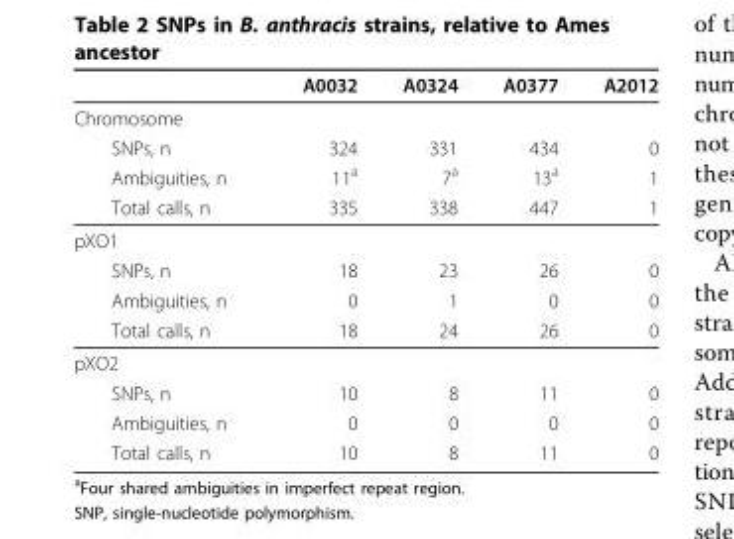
<table><thead><tr><td></td><td>A0032</td><td>A0324</td><td>A0377</td><td>A2012</td></tr></thead><tbody><tr><td colspan="5">Chromosome</td></tr><tr><td>SNPs, n</td><td>324</td><td>331</td><td>434</td><td>0</td></tr><tr><td>Ambiguities, n</td><td>11<sup>a</sup></td><td>7<sup>a</sup></td><td>13<sup>a</sup></td><td>1</td></tr><tr><td>Total calls, n</td><td>335</td><td>338</td><td>447</td><td>1</td></tr><tr><td colspan="5">pXO1</td></tr><tr><td>SNPs, n</td><td>18</td><td>23</td><td>26</td><td>0</td></tr><tr><td>Ambiguities, n</td><td>0</td><td>1</td><td>0</td><td>0</td></tr><tr><td>Total calls, n</td><td>18</td><td>24</td><td>26</td><td>0</td></tr><tr><td colspan="5">pXO2</td></tr><tr><td>SNPs, n</td><td>10</td><td>8</td><td>11</td><td>0</td></tr><tr><td>Ambiguities, n</td><td>0</td><td>0</td><td>0</td><td>0</td></tr><tr><td>Total calls, n</td><td>10</td><td>8</td><td>11</td><td>0</td></tr></tbody></table>